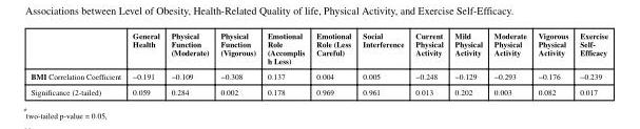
<table><thead><tr><td></td><td>General Health</td><td>Physical Function (Moderate)</td><td>Physical Function (Vigorous)</td><td>Emotional Role (Accomplis h Less)</td><td>Emotional Role (Less Careful)</td><td>Social Interference</td><td>Current Physical Activity</td><td>Mild Physical Activity</td><td>Moderate Physical Activity</td><td>Vigorous Physical Activity</td><td>Exercise Self- Efficacy</td></tr></thead><tbody><tr><td>BMI Correlation Coefficient</td><td>−0.191</td><td>−0.109</td><td>−0.308</td><td>0.137</td><td>0.004</td><td>0.005</td><td>−0.248</td><td>−0.129</td><td>−0.293</td><td>−0.176</td><td>−0.239</td></tr><tr><td>Significance (2-tailed)</td><td>0.059</td><td>0.284</td><td>0.002</td><td>0.178</td><td>0.969</td><td>0.961</td><td>0.013</td><td>0.202</td><td>0.003</td><td>0.082</td><td>0.017</td></tr></tbody></table>